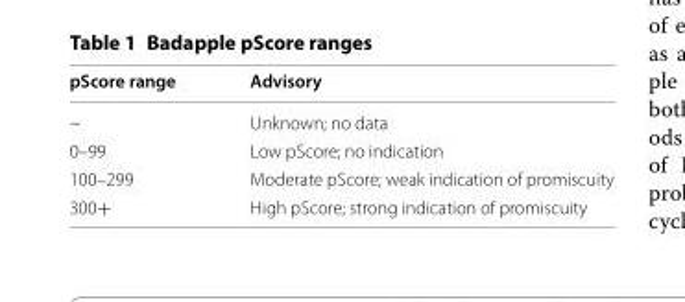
<table><thead><tr><td>pScore range</td><td>Advisory</td></tr></thead><tbody><tr><td>~</td><td>Unknown; no data</td></tr><tr><td>0–99</td><td>Low pScore; no indication</td></tr><tr><td>100–299</td><td>Moderate pScore; weak indication of promiscuity</td></tr><tr><td>300+</td><td>High pScore; strong indication of promiscuity</td></tr></tbody></table>